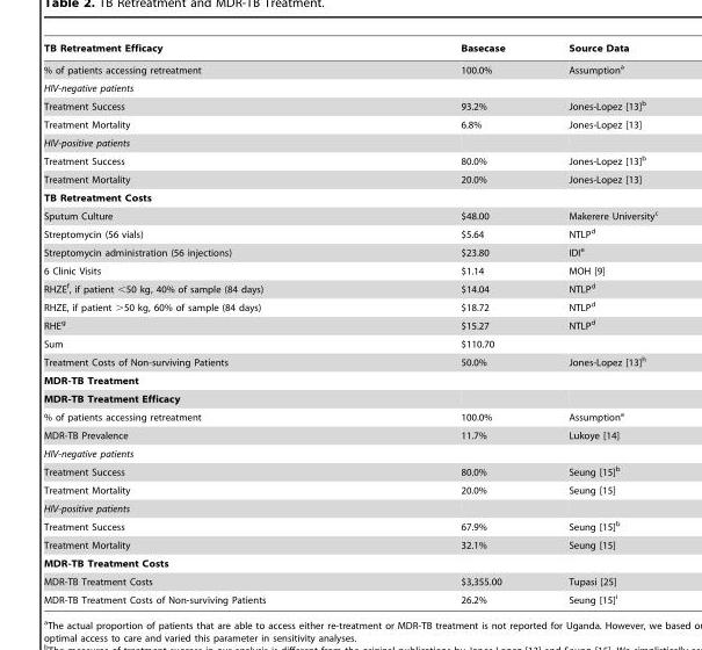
<table><thead><tr><td>TB Retreatment Efficacy</td><td>Basecase</td><td>Source Data</td></tr></thead><tbody><tr><td>% of patients accessing retreatment</td><td>100.0%</td><td>Assumption<sup>a</sup></td></tr><tr><td colspan="3">HIV-negative patients</td></tr><tr><td>Treatment Success</td><td>93.2%</td><td>Jones-Lopez [13]b</td></tr><tr><td>Treatment Mortality</td><td>6.8%</td><td>Jones-Lopez [13]</td></tr><tr><td colspan="3">HIV-positive patients</td></tr><tr><td>Treatment Success</td><td>80.0%</td><td>Jones-Lopez [13]b</td></tr><tr><td>Treatment Mortality</td><td>20.0%</td><td>Jones-Lopez [13]</td></tr><tr><td colspan="3">TB Retreatment Costs</td></tr><tr><td>Sputum Culture</td><td>$48.00</td><td>Makerere University<sup>c</sup></td></tr><tr><td>Streptomycin (56 vials)</td><td>$5.64</td><td>NTLP<sup>d</sup></td></tr><tr><td>Streptomycin administration (56 injections)</td><td>$23.80</td><td>IDI<sup>e</sup></td></tr><tr><td>6 Clinic Visits</td><td>$1.14</td><td>MOH [9]</td></tr><tr><td>RHZE<sup>f</sup>, if patient &lt;50 kg, 40% of sample (84 days)</td><td>$14.04</td><td>NTLP<sup>d</sup></td></tr><tr><td>RHZE, if patient &gt;50 kg, 60% of sample (84 days)</td><td>$18.72</td><td>NTLP<sup>d</sup></td></tr><tr><td>RHE<sup>g</sup></td><td>$15.27</td><td>NTLP<sup>d</sup></td></tr><tr><td>Sum</td><td>$110.70</td><td></td></tr><tr><td>Treatment Costs of Non-surviving Patients</td><td>50.0%</td><td>Jones-Lopez [13]h</td></tr><tr><td colspan="3">MDR-TB Treatment</td></tr><tr><td colspan="3">MDR-TB Treatment Efficacy</td></tr><tr><td>% of patients accessing retreatment</td><td>100.0%</td><td>Assumption<sup>a</sup></td></tr><tr><td>MDR-TB Prevalence</td><td>11.7%</td><td>Lukoye [14]</td></tr><tr><td colspan="3">HIV-negative patients</td></tr><tr><td>Treatment Success</td><td>80.0%</td><td>Seung [15]b</td></tr><tr><td>Treatment Mortality</td><td>20.0%</td><td>Seung [15]</td></tr><tr><td colspan="3">HIV-positive patients</td></tr><tr><td>Treatment Success</td><td>67.9%</td><td>Seung [15]b</td></tr><tr><td>Treatment Mortality</td><td>32.1%</td><td>Seung [15]</td></tr><tr><td colspan="3">MDR-TB Treatment Costs</td></tr><tr><td>MDR-TB Treatment Costs</td><td>$3,355.00</td><td>Tupasi [25]</td></tr><tr><td>MDR-TB Treatment Costs of Non-surviving Patients</td><td>26.2%</td><td>Seung [15]i</td></tr></tbody></table>